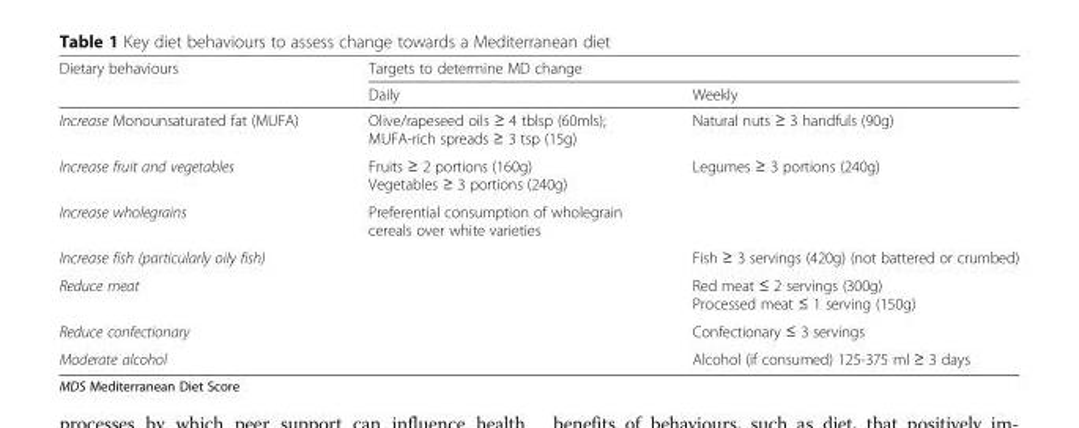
<table><thead><tr><td rowspan="2">Dietary behaviours</td><td colspan="2">Targets to determine MD change</td></tr><tr><td>Daily</td><td>Weekly</td></tr></thead><tbody><tr><td>Increase Monounsaturated fat (MUFA)</td><td>Olive/rapeseed oils ≥ 4 tblsp (60mls); MUFA-rich spreads ≥ 3 tsp (15g)</td><td>Natural nuts ≥ 3 handfuls (90g)</td></tr><tr><td>Increase fruit and vegetables</td><td>Fruits ≥ 2 portions (160g) Vegetables ≥ 3 portions (240g)</td><td>Legumes ≥ 3 portions (240g)</td></tr><tr><td>Increase wholegrains</td><td>Preferential consumption of wholegrain cereals over white varieties</td><td></td></tr><tr><td>Increase fish (particularly oily fish)</td><td></td><td>Fish ≥ 3 servings (420g) (not battered or crumbed)</td></tr><tr><td>Reduce meat</td><td></td><td>Red meat ≤ 2 servings (300g) Processed meat ≤ 1 serving (150g)</td></tr><tr><td>Reduce confectionary</td><td></td><td>Confectionary ≤ 3 servings</td></tr><tr><td>Moderate alcohol</td><td></td><td>Alcohol (if consumed) 125-375 ml ≥ 3 days</td></tr></tbody></table>